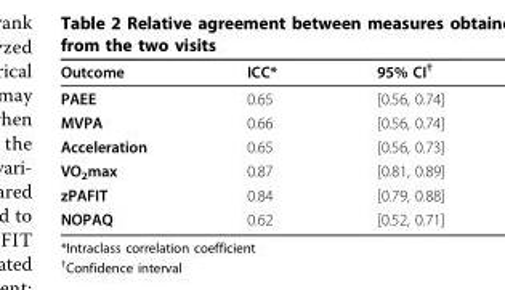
<table><thead><tr><td>Outcome</td><td>ICC*</td><td>95% CI<sup>†</sup></td></tr></thead><tbody><tr><td>PAEE</td><td>0.65</td><td>[0.56, 0.74]</td></tr><tr><td>MVPA</td><td>0.66</td><td>[0.56, 0.74]</td></tr><tr><td>Acceleration</td><td>0.65</td><td>[0.56, 0.73]</td></tr><tr><td>VO<sub>2</sub>max</td><td>0.87</td><td>[0.81, 0.89]</td></tr><tr><td>zPAFIT</td><td>0.84</td><td>[0.79, 0.88]</td></tr><tr><td>NOPAQ</td><td>0.62</td><td>[0.52, 0.71]</td></tr></tbody></table>